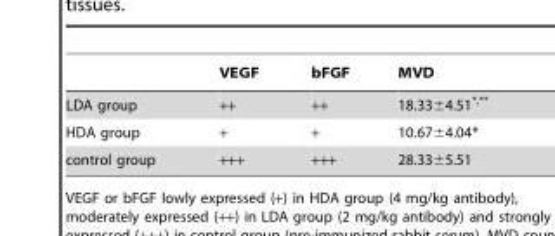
<table><thead><tr><td></td><td>VEGF</td><td>bFGF</td><td>MVD</td></tr></thead><tbody><tr><td>LDA group</td><td>++</td><td>++</td><td>18.33±4.51<sup>*,**</sup></td></tr><tr><td>HDA group</td><td>+</td><td>+</td><td>10.67±4.04*</td></tr><tr><td>control group</td><td>+++</td><td>+++</td><td>28.33±5.51</td></tr></tbody></table>